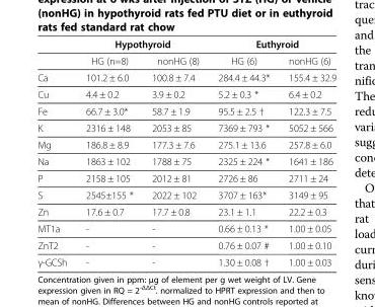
<table><thead><tr><td rowspan="2"></td><td colspan="2">Hypothyroid</td><td colspan="2">Euthyroid</td></tr><tr><td>HG (n=8)</td><td>nonHG (8)</td><td>HG (6)</td><td>nonHG (6)</td></tr></thead><tbody><tr><td>Ca</td><td>101.2 ± 6.0</td><td>100.8 ± 7.4</td><td>284.4 ± 44.3*</td><td>155.4 ± 32.9</td></tr><tr><td>Cu</td><td>4.4 ± 0.2</td><td>3.9 ± 0.2</td><td>5.2 ± 0.3 *</td><td>6.4 ± 0.2</td></tr><tr><td>Fe</td><td>66.7 ± 3.0*</td><td>58.7 ± 1.9</td><td>95.5 ± 2.5 †</td><td>122.3 ± 7.5</td></tr><tr><td>K</td><td>2316 ± 148</td><td>2053 ± 85</td><td>7369 ± 793 *</td><td>5052 ± 566</td></tr><tr><td>Mg</td><td>186.8 ± 8.9</td><td>177.3 ± 7.6</td><td>275.1 ± 13.6</td><td>257.8 ± 6.0</td></tr><tr><td>Na</td><td>1863 ± 102</td><td>1788 ± 75</td><td>2325 ± 224 *</td><td>1641 ± 186</td></tr><tr><td>P</td><td>2158 ± 105</td><td>2012 ± 81</td><td>2726 ± 86</td><td>2711 ± 24</td></tr><tr><td>S</td><td>2545±155 *</td><td>2022 ± 102</td><td>3707 ± 163*</td><td>3149 ± 95</td></tr><tr><td>Zn</td><td>17.6 ± 0.7</td><td>17.7 ± 0.8</td><td>23.1 ± 1.1</td><td>22.2 ± 0.3</td></tr><tr><td>MT1a</td><td>-</td><td>-</td><td>0.66 ± 0.13 *</td><td>1.00 ± 0.05</td></tr><tr><td>ZnT2</td><td>-</td><td>-</td><td>0.76 ± 0.07 #</td><td>1.00 ± 0.10</td></tr><tr><td>γ-GCSh</td><td>-</td><td>-</td><td>1.30 ± 0.08 †</td><td>1.00 ± 0.03</td></tr></tbody></table>